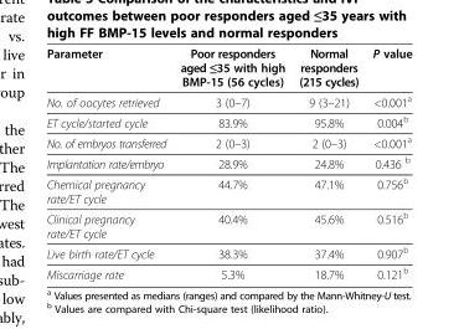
<table><thead><tr><td>Parameter</td><td>Poor responders aged ≤35 with high BMP-15 (56 cycles)</td><td>Normal responders (215 cycles)</td><td>P value</td></tr></thead><tbody><tr><td>No. of oocytes retrieved</td><td>3 (0–7)</td><td>9 (3–21)</td><td>&lt;0.001<sup>a</sup></td></tr><tr><td>ET cycle/started cycle</td><td>83.9%</td><td>95.8%</td><td>0.004<sup>b</sup></td></tr><tr><td>No. of embryos transferred</td><td>2 (0–3)</td><td>2 (0–3)</td><td>&lt;0.001<sup>a</sup></td></tr><tr><td>Implantation rate/embryo</td><td>28.9%</td><td>24.8%</td><td>0.436 <sup>b</sup></td></tr><tr><td>Chemical pregnancy rate/ET cycle</td><td>44.7%</td><td>47.1%</td><td>0.756<sup>b</sup></td></tr><tr><td>Clinical pregnancy rate/ET cycle</td><td>40.4%</td><td>45.6%</td><td>0.516<sup>b</sup></td></tr><tr><td>Live birth rate/ET cycle</td><td>38.3%</td><td>37.4%</td><td>0.907<sup>b</sup></td></tr><tr><td>Miscarriage rate</td><td>5.3%</td><td>18.7%</td><td>0.121<sup>b</sup></td></tr></tbody></table>